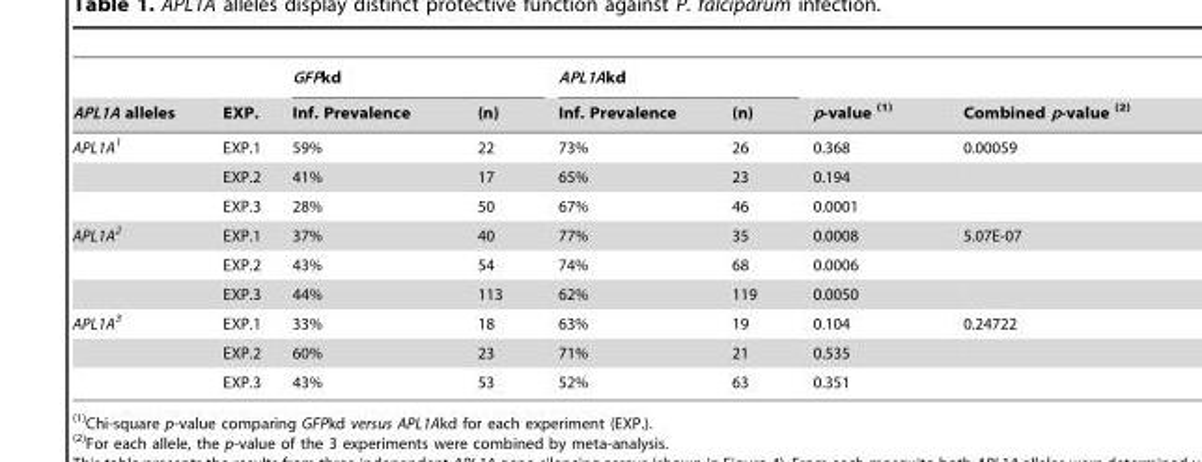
<table><thead><tr><td rowspan="2">APL1A alleles</td><td rowspan="2">EXP.</td><td colspan="2">GFPkd</td><td colspan="2">APL1Akd</td><td rowspan="2">p-value (1)</td><td rowspan="2">Combined p-value (2)</td></tr><tr><td>Inf. Prevalence</td><td>(n)</td><td>Inf. Prevalence</td><td>(n)</td></tr></thead><tbody><tr><td rowspan="3">APL1A<sup>1</sup></td><td>EXP.1</td><td>59%</td><td>22</td><td>73%</td><td>26</td><td>0.368</td><td>0.00059</td></tr><tr><td>EXP.2</td><td>41%</td><td>17</td><td>65%</td><td>23</td><td>0.194</td><td></td></tr><tr><td>EXP.3</td><td>28%</td><td>50</td><td>67%</td><td>46</td><td>0.0001</td><td></td></tr><tr><td rowspan="3">APL1A<sup>2</sup></td><td>EXP.1</td><td>37%</td><td>40</td><td>77%</td><td>35</td><td>0.0008</td><td>5.07E-07</td></tr><tr><td>EXP.2</td><td>43%</td><td>54</td><td>74%</td><td>68</td><td>0.0006</td><td></td></tr><tr><td>EXP.3</td><td>44%</td><td>113</td><td>62%</td><td>119</td><td>0.0050</td><td></td></tr><tr><td rowspan="3">APL1A<sup>3</sup></td><td>EXP.1</td><td>33%</td><td>18</td><td>63%</td><td>19</td><td>0.104</td><td>0.24722</td></tr><tr><td>EXP.2</td><td>60%</td><td>23</td><td>71%</td><td>21</td><td>0.535</td><td></td></tr><tr><td>EXP.3</td><td>43%</td><td>53</td><td>52%</td><td>63</td><td>0.351</td><td></td></tr></tbody></table>